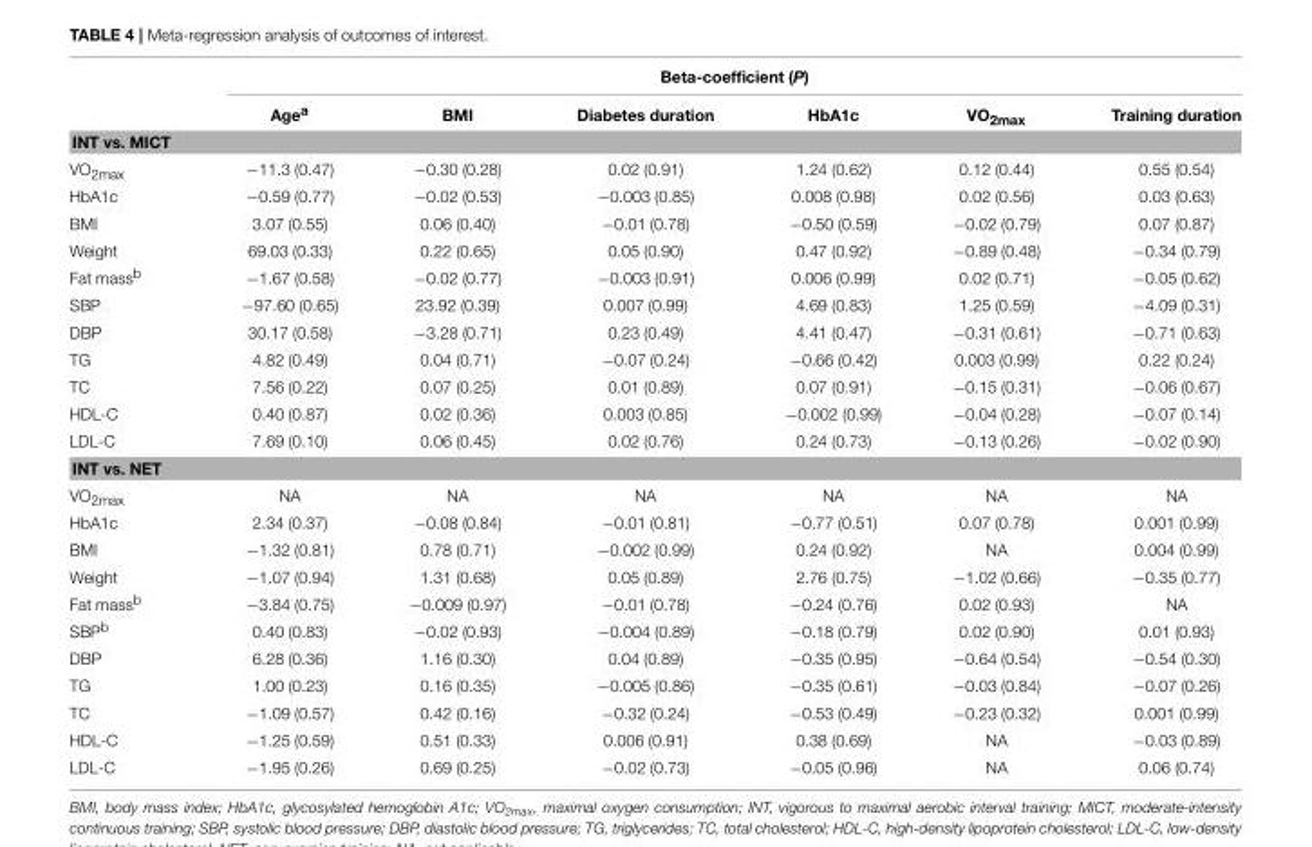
<table><thead><tr><td rowspan="2"></td><td colspan="6">Beta-coefficient (P)</td></tr><tr><td>Age<sup>a</sup></td><td>BMI</td><td>Diabetes duration</td><td>HbA1c</td><td>VO<sub>2max</sub></td><td>Training duration</td></tr></thead><tbody><tr><td colspan="7">INT vs. MICT</td></tr><tr><td>VO<sub>2max</sub></td><td>−11.3 (0.47)</td><td>−0.30 (0.28)</td><td>0.02 (0.91)</td><td>1.24 (0.62)</td><td>0.12 (0.44)</td><td>0.55 (0.54)</td></tr><tr><td>HbA1c</td><td>−0.59 (0.77)</td><td>−0.02 (0.53)</td><td>−0.003 (0.85)</td><td>0.008 (0.98)</td><td>0.02 (0.56)</td><td>0.03 (0.63)</td></tr><tr><td>BMI</td><td>3.07 (0.55)</td><td>0.06 (0.40)</td><td>−0.01 (0.78)</td><td>−0.50 (0.59)</td><td>−0.02 (0.79)</td><td>0.07 (0.87)</td></tr><tr><td>Weight</td><td>69.03 (0.33)</td><td>0.22 (0.65)</td><td>0.05 (0.90)</td><td>0.47 (0.92)</td><td>−0.89 (0.48)</td><td>−0.34 (0.79)</td></tr><tr><td>Fat mass<sup>b</sup></td><td>−1.67 (0.58)</td><td>−0.02 (0.77)</td><td>−0.003 (0.91)</td><td>0.006 (0.99)</td><td>0.02 (0.71)</td><td>−0.05 (0.62)</td></tr><tr><td>SBP</td><td>−97.60 (0.65)</td><td>23.92 (0.39)</td><td>0.007 (0.99)</td><td>4.69 (0.83)</td><td>1.25 (0.59)</td><td>−4.09 (0.31)</td></tr><tr><td>DBP</td><td>30.17 (0.58)</td><td>−3.28 (0.71)</td><td>0.23 (0.49)</td><td>4.41 (0.47)</td><td>−0.31 (0.61)</td><td>−0.71 (0.63)</td></tr><tr><td>TG</td><td>4.82 (0.49)</td><td>0.04 (0.71)</td><td>−0.07 (0.24)</td><td>−0.66 (0.42)</td><td>0.003 (0.99)</td><td>0.22 (0.24)</td></tr><tr><td>TC</td><td>7.56 (0.22)</td><td>0.07 (0.25)</td><td>0.01 (0.89)</td><td>0.07 (0.91)</td><td>−0.15 (0.31)</td><td>−0.06 (0.67)</td></tr><tr><td>HDL-C</td><td>0.40 (0.87)</td><td>0.02 (0.36)</td><td>0.003 (0.85)</td><td>−0.002 (0.99)</td><td>−0.04 (0.28)</td><td>−0.07 (0.14)</td></tr><tr><td>LDL-C</td><td>7.69 (0.10)</td><td>0.06 (0.45)</td><td>0.02 (0.76)</td><td>0.24 (0.73)</td><td>−0.13 (0.26)</td><td>−0.02 (0.90)</td></tr><tr><td colspan="7">INT vs. NET</td></tr><tr><td>VO<sub>2max</sub></td><td>NA</td><td>NA</td><td>NA</td><td>NA</td><td>NA</td><td>NA</td></tr><tr><td>HbA1c</td><td>2.34 (0.37)</td><td>−0.08 (0.84)</td><td>−0.01 (0.81)</td><td>−0.77 (0.51)</td><td>0.07 (0.78)</td><td>0.001 (0.99)</td></tr><tr><td>BMI</td><td>−1.32 (0.81)</td><td>0.78 (0.71)</td><td>−0.002 (0.99)</td><td>0.24 (0.92)</td><td>NA</td><td>0.004 (0.99)</td></tr><tr><td>Weight</td><td>−1.07 (0.94)</td><td>1.31 (0.68)</td><td>0.05 (0.89)</td><td>2.76 (0.75)</td><td>−1.02 (0.66)</td><td>−0.35 (0.77)</td></tr><tr><td>Fat mass<sup>b</sup></td><td>−3.84 (0.75)</td><td>−0.009 (0.97)</td><td>−0.01 (0.78)</td><td>−0.24 (0.76)</td><td>0.02 (0.93)</td><td>NA</td></tr><tr><td>SBP<sup>b</sup></td><td>0.40 (0.83)</td><td>−0.02 (0.93)</td><td>−0.004 (0.89)</td><td>−0.18 (0.79)</td><td>0.02 (0.90)</td><td>0.01 (0.93)</td></tr><tr><td>DBP</td><td>6.28 (0.36)</td><td>1.16 (0.30)</td><td>0.04 (0.89)</td><td>−0.35 (0.95)</td><td>−0.64 (0.54)</td><td>−0.54 (0.30)</td></tr><tr><td>TG</td><td>1.00 (0.23)</td><td>0.16 (0.35)</td><td>−0.005 (0.86)</td><td>−0.35 (0.61)</td><td>−0.03 (0.84)</td><td>−0.07 (0.26)</td></tr><tr><td>TC</td><td>−1.09 (0.57)</td><td>0.42 (0.16)</td><td>−0.32 (0.24)</td><td>−0.53 (0.49)</td><td>−0.23 (0.32)</td><td>0.001 (0.99)</td></tr><tr><td>HDL-C</td><td>−1.25 (0.59)</td><td>0.51 (0.33)</td><td>0.006 (0.91)</td><td>0.38 (0.69)</td><td>NA</td><td>−0.03 (0.89)</td></tr><tr><td>LDL-C</td><td>−1.95 (0.26)</td><td>0.69 (0.25)</td><td>−0.02 (0.73)</td><td>−0.05 (0.96)</td><td>NA</td><td>0.06 (0.74)</td></tr></tbody></table>